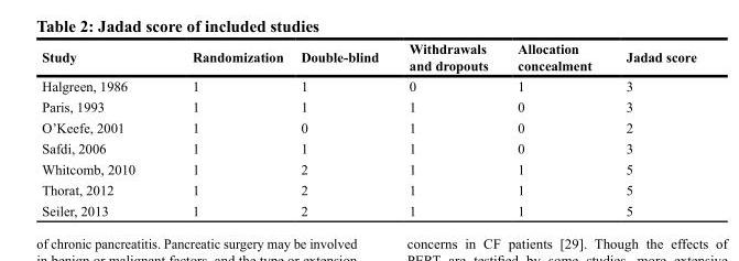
<table><thead><tr><td>Study</td><td>Randomization</td><td>Double-blind</td><td>Withdrawals and dropouts</td><td>Allocation concealment</td><td>Jadad score</td></tr></thead><tbody><tr><td>Halgreen, 1986</td><td>1</td><td>1</td><td>0</td><td>1</td><td>3</td></tr><tr><td>Paris, 1993</td><td>1</td><td>1</td><td>1</td><td>0</td><td>3</td></tr><tr><td>O’Keefe, 2001</td><td>1</td><td>0</td><td>1</td><td>0</td><td>2</td></tr><tr><td>Safdi, 2006</td><td>1</td><td>1</td><td>1</td><td>0</td><td>3</td></tr><tr><td>Whitcomb, 2010</td><td>1</td><td>2</td><td>1</td><td>1</td><td>5</td></tr><tr><td>Thorat, 2012</td><td>1</td><td>2</td><td>1</td><td>1</td><td>5</td></tr><tr><td>Seiler, 2013</td><td>1</td><td>2</td><td>1</td><td>1</td><td>5</td></tr></tbody></table>